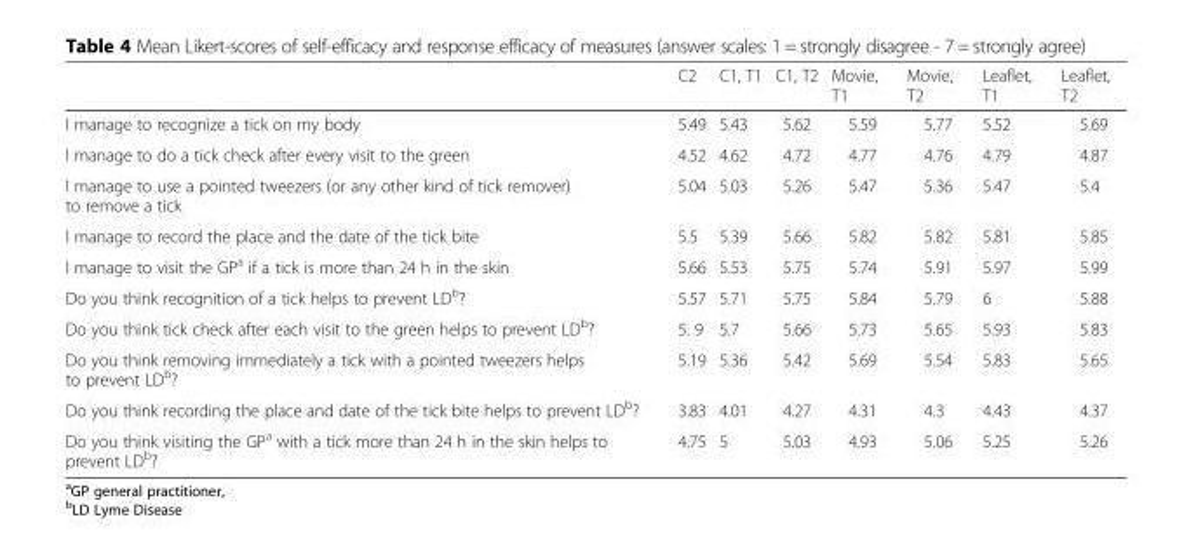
<table><thead><tr><td></td><td>C2</td><td>C1, T1</td><td>C1, T2</td><td>Movie, T1</td><td>Movie, T2</td><td>Leaflet, T1</td><td>Leaflet, T2</td></tr></thead><tbody><tr><td>I manage to recognize a tick on my body</td><td>5.49</td><td>5.43</td><td>5.62</td><td>5.59</td><td>5.77</td><td>5.52</td><td>5.69</td></tr><tr><td>I manage to do a tick check after every visit to the green</td><td>4.52</td><td>4.62</td><td>4.72</td><td>4.77</td><td>4.76</td><td>4.79</td><td>4.87</td></tr><tr><td>I manage to use a pointed tweezers (or any other kind of tick remover) to remove a tick</td><td>5.04</td><td>5.03</td><td>5.26</td><td>5.47</td><td>5.36</td><td>5.47</td><td>5.4</td></tr><tr><td>I manage to record the place and the date of the tick bite</td><td>5.5</td><td>5.39</td><td>5.66</td><td>5.82</td><td>5.82</td><td>5.81</td><td>5.85</td></tr><tr><td>I manage to visit the GP<sup>a</sup> if a tick is more than 24 h in the skin</td><td>5.66</td><td>5.53</td><td>5.75</td><td>5.74</td><td>5.91</td><td>5.97</td><td>5.99</td></tr><tr><td>Do you think recognition of a tick helps to prevent LD<sup>b</sup>?</td><td>5.57</td><td>5.71</td><td>5.75</td><td>5.84</td><td>5.79</td><td>6</td><td>5.88</td></tr><tr><td>Do you think tick check after each visit to the green helps to prevent LD<sup>b</sup>?</td><td>5. 9</td><td>5.7</td><td>5.66</td><td>5.73</td><td>5.65</td><td>5.93</td><td>5.83</td></tr><tr><td>Do you think removing immediately a tick with a pointed tweezers helps to prevent LD<sup>b</sup>?</td><td>5.19</td><td>5.36</td><td>5.42</td><td>5.69</td><td>5.54</td><td>5.83</td><td>5.65</td></tr><tr><td>Do you think recording the place and date of the tick bite helps to prevent LD<sup>b</sup>?</td><td>3.83</td><td>4.01</td><td>4.27</td><td>4.31</td><td>4.3</td><td>4.43</td><td>4.37</td></tr><tr><td>Do you think visiting the GP<sup>a</sup> with a tick more than 24 h in the skin helps to prevent LD<sup>b</sup>?</td><td>4.75</td><td>5</td><td>5.03</td><td>4.93</td><td>5.06</td><td>5.25</td><td>5.26</td></tr></tbody></table>